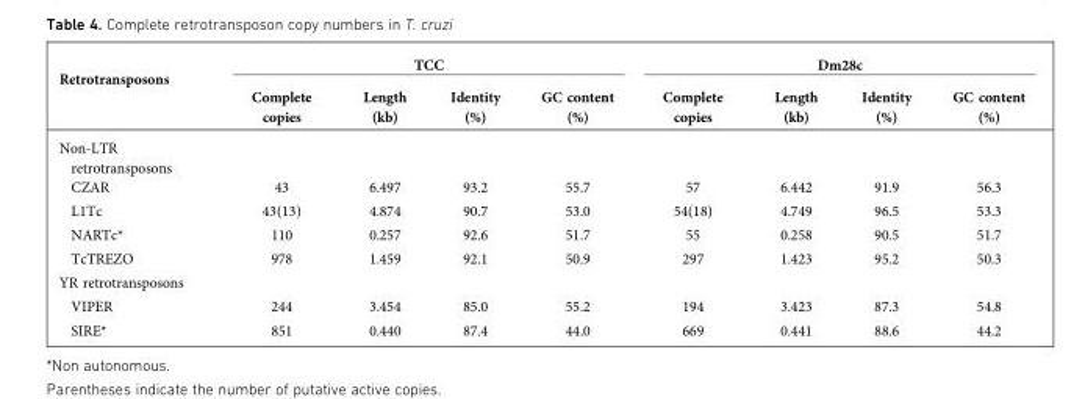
<table><thead><tr><td rowspan="2">Retrotransposons</td><td colspan="4">TCC</td><td colspan="4">Dm28c</td></tr><tr><td>Complete copies</td><td>Length (kb)</td><td>Identity (%)</td><td>GC content (%)</td><td>Complete copies</td><td>Length (kb)</td><td>Identity (%)</td><td>GC content (%)</td></tr></thead><tbody><tr><td colspan="9">Non-LTR retrotransposons</td></tr><tr><td>CZAR</td><td>43</td><td>6.497</td><td>93.2</td><td>55.7</td><td>57</td><td>6.442</td><td>91.9</td><td>56.3</td></tr><tr><td>L1Tc</td><td>43(13)</td><td>4.874</td><td>90.7</td><td>53.0</td><td>54(18)</td><td>4.749</td><td>96.5</td><td>53.3</td></tr><tr><td>NARTc*</td><td>110</td><td>0.257</td><td>92.6</td><td>51.7</td><td>55</td><td>0.258</td><td>90.5</td><td>51.7</td></tr><tr><td>TcTREZO</td><td>978</td><td>1.459</td><td>92.1</td><td>50.9</td><td>297</td><td>1.423</td><td>95.2</td><td>50.3</td></tr><tr><td colspan="9">YR retrotransposons</td></tr><tr><td>VIPER</td><td>244</td><td>3.454</td><td>85.0</td><td>55.2</td><td>194</td><td>3.423</td><td>87.3</td><td>54.8</td></tr><tr><td>SIRE*</td><td>851</td><td>0.440</td><td>87.4</td><td>44.0</td><td>669</td><td>0.441</td><td>88.6</td><td>44.2</td></tr></tbody></table>